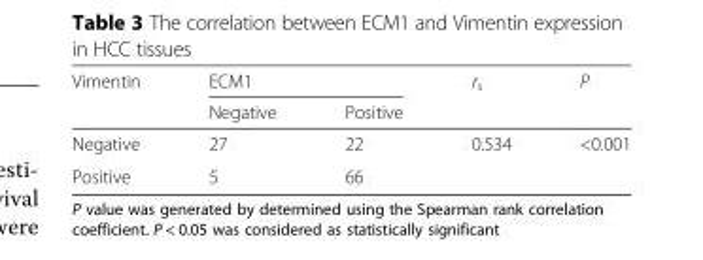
<table><thead><tr><td rowspan="2">Vimentin</td><td colspan="2">ECM1</td><td rowspan="2">r<sub>s</sub></td><td rowspan="2">P</td></tr><tr><td>Negative</td><td>Positive</td></tr></thead><tbody><tr><td>Negative</td><td>27</td><td>22</td><td rowspan="2">0.534</td><td rowspan="2">&lt;0.001</td></tr><tr><td>Positive</td><td>5</td><td>66</td></tr></tbody></table>